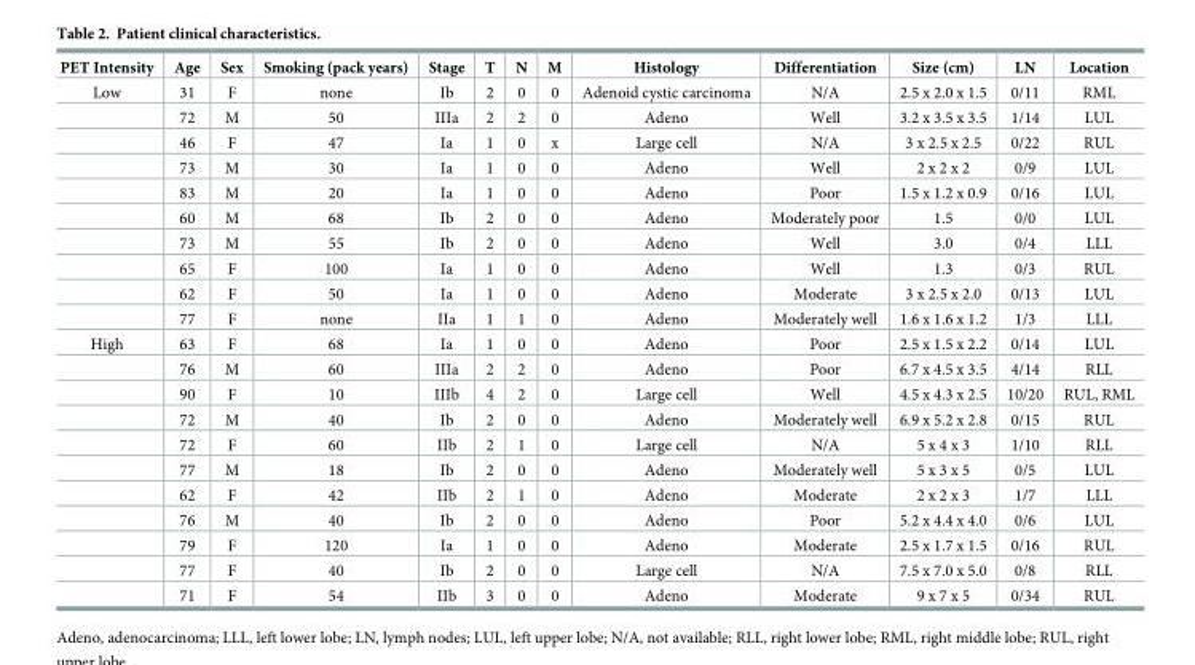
<table><thead><tr><td>PET Intensity</td><td>Age</td><td>Sex</td><td>Smoking (pack years)</td><td>Stage</td><td>T</td><td>N</td><td>M</td><td>Histology</td><td>Differentiation</td><td>Size (cm)</td><td>LN</td><td>Location</td></tr></thead><tbody><tr><td rowspan="10">Low</td><td>31</td><td>F</td><td>none</td><td>Ib</td><td>2</td><td>0</td><td>0</td><td>Adenoid cystic carcinoma</td><td>N/A</td><td>2.5 x 2.0 x 1.5</td><td>0/11</td><td>RML</td></tr><tr><td>72</td><td>M</td><td>50</td><td>IIIa</td><td>2</td><td>2</td><td>0</td><td>Adeno</td><td>Well</td><td>3.2 x 3.5 x 3.5</td><td>1/14</td><td>LUL</td></tr><tr><td>46</td><td>F</td><td>47</td><td>Ia</td><td>1</td><td>0</td><td>x</td><td>Large cell</td><td>N/A</td><td>3 x 2.5 x 2.5</td><td>0/22</td><td>RUL</td></tr><tr><td>73</td><td>M</td><td>30</td><td>Ia</td><td>1</td><td>0</td><td>0</td><td>Adeno</td><td>Well</td><td>2 x 2 x 2</td><td>0/9</td><td>LUL</td></tr><tr><td>83</td><td>M</td><td>20</td><td>Ia</td><td>1</td><td>0</td><td>0</td><td>Adeno</td><td>Poor</td><td>1.5 x 1.2 x 0.9</td><td>0/16</td><td>LUL</td></tr><tr><td>60</td><td>M</td><td>68</td><td>Ib</td><td>2</td><td>0</td><td>0</td><td>Adeno</td><td>Moderately poor</td><td>1.5</td><td>0/0</td><td>LUL</td></tr><tr><td>73</td><td>M</td><td>55</td><td>Ib</td><td>2</td><td>0</td><td>0</td><td>Adeno</td><td>Well</td><td>3.0</td><td>0/4</td><td>LLL</td></tr><tr><td>65</td><td>F</td><td>100</td><td>Ia</td><td>1</td><td>0</td><td>0</td><td>Adeno</td><td>Well</td><td>1.3</td><td>0/3</td><td>RUL</td></tr><tr><td>62</td><td>F</td><td>50</td><td>Ia</td><td>1</td><td>0</td><td>0</td><td>Adeno</td><td>Moderate</td><td>3 x 2.5 x 2.0</td><td>0/13</td><td>LUL</td></tr><tr><td>77</td><td>F</td><td>none</td><td>IIa</td><td>1</td><td>1</td><td>0</td><td>Adeno</td><td>Moderately well</td><td>1.6 x 1.6 x 1.2</td><td>1/3</td><td>LLL</td></tr><tr><td rowspan="11">High</td><td>63</td><td>F</td><td>68</td><td>Ia</td><td>1</td><td>0</td><td>0</td><td>Adeno</td><td>Poor</td><td>2.5 x 1.5 x 2.2</td><td>0/14</td><td>LUL</td></tr><tr><td>76</td><td>M</td><td>60</td><td>IIIa</td><td>2</td><td>2</td><td>0</td><td>Adeno</td><td>Poor</td><td>6.7 x 4.5 x 3.5</td><td>4/14</td><td>RLL</td></tr><tr><td>90</td><td>F</td><td>10</td><td>IIIb</td><td>4</td><td>2</td><td>0</td><td>Large cell</td><td>Well</td><td>4.5 x 4.3 x 2.5</td><td>10/20</td><td>RUL, RML</td></tr><tr><td>72</td><td>M</td><td>40</td><td>Ib</td><td>2</td><td>0</td><td>0</td><td>Adeno</td><td>Moderately well</td><td>6.9 x 5.2 x 2.8</td><td>0/15</td><td>RUL</td></tr><tr><td>72</td><td>F</td><td>60</td><td>IIb</td><td>2</td><td>1</td><td>0</td><td>Large cell</td><td>N/A</td><td>5 x 4 x 3</td><td>1/10</td><td>RLL</td></tr><tr><td>77</td><td>M</td><td>18</td><td>Ib</td><td>2</td><td>0</td><td>0</td><td>Adeno</td><td>Moderately well</td><td>5 x 3 x 5</td><td>0/5</td><td>LUL</td></tr><tr><td>62</td><td>F</td><td>42</td><td>IIb</td><td>2</td><td>1</td><td>0</td><td>Adeno</td><td>Moderate</td><td>2 x 2 x 3</td><td>1/7</td><td>LLL</td></tr><tr><td>76</td><td>M</td><td>40</td><td>Ib</td><td>2</td><td>0</td><td>0</td><td>Adeno</td><td>Poor</td><td>5.2 x 4.4 x 4.0</td><td>0/6</td><td>LUL</td></tr><tr><td>79</td><td>F</td><td>120</td><td>Ia</td><td>1</td><td>0</td><td>0</td><td>Adeno</td><td>Moderate</td><td>2.5 x 1.7 x 1.5</td><td>0/16</td><td>RUL</td></tr><tr><td>77</td><td>F</td><td>40</td><td>Ib</td><td>2</td><td>0</td><td>0</td><td>Large cell</td><td>N/A</td><td>7.5 x 7.0 x 5.0</td><td>0/8</td><td>RLL</td></tr><tr><td>71</td><td>F</td><td>54</td><td>IIb</td><td>3</td><td>0</td><td>0</td><td>Adeno</td><td>Moderate</td><td>9 x 7 x 5</td><td>0/34</td><td>RUL</td></tr></tbody></table>